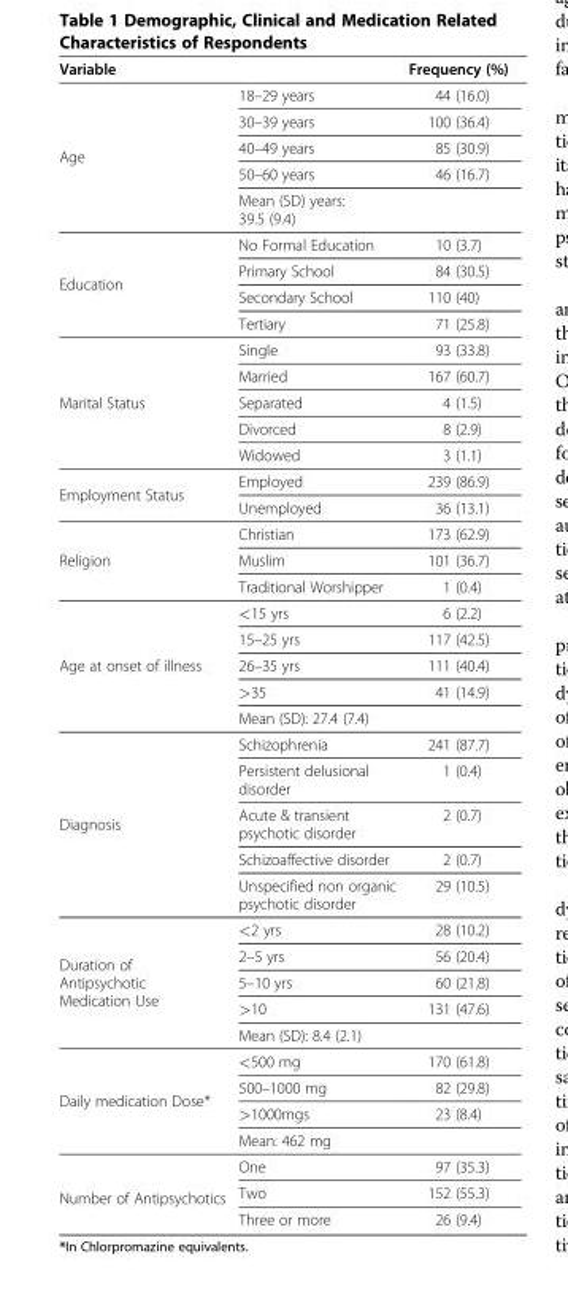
<table><thead><tr><td>Variable</td><td></td><td>Frequency (%)</td></tr></thead><tbody><tr><td rowspan="5">Age</td><td>18–29 years</td><td>44 (16.0)</td></tr><tr><td>30–39 years</td><td>100 (36.4)</td></tr><tr><td>40–49 years</td><td>85 (30.9)</td></tr><tr><td>50–60 years</td><td>46 (16.7)</td></tr><tr><td>Mean (SD) years: 39.5 (9.4)</td><td></td></tr><tr><td rowspan="4">Education</td><td>No Formal Education</td><td>10 (3.7)</td></tr><tr><td>Primary School</td><td>84 (30.5)</td></tr><tr><td>Secondary School</td><td>110 (40)</td></tr><tr><td>Tertiary</td><td>71 (25.8)</td></tr><tr><td rowspan="5">Marital Status</td><td>Single</td><td>93 (33.8)</td></tr><tr><td>Married</td><td>167 (60.7)</td></tr><tr><td>Separated</td><td>4 (1.5)</td></tr><tr><td>Divorced</td><td>8 (2.9)</td></tr><tr><td>Widowed</td><td>3 (1.1)</td></tr><tr><td rowspan="2">Employment Status</td><td>Employed</td><td>239 (86.9)</td></tr><tr><td>Unemployed</td><td>36 (13.1)</td></tr><tr><td rowspan="3">Religion</td><td>Christian</td><td>173 (62.9)</td></tr><tr><td>Muslim</td><td>101 (36.7)</td></tr><tr><td>Traditional Worshipper</td><td>1 (0.4)</td></tr><tr><td rowspan="5">Age at onset of illness</td><td>&lt;15 yrs</td><td>6 (2.2)</td></tr><tr><td>15–25 yrs</td><td>117 (42.5)</td></tr><tr><td>26–35 yrs</td><td>111 (40.4)</td></tr><tr><td>&gt;35</td><td>41 (14.9)</td></tr><tr><td>Mean (SD): 27.4 (7.4)</td><td></td></tr><tr><td rowspan="5">Diagnosis</td><td>Schizophrenia</td><td>241 (87.7)</td></tr><tr><td>Persistent delusional disorder</td><td>1 (0.4)</td></tr><tr><td>Acute &amp; transient psychotic disorder</td><td>2 (0.7)</td></tr><tr><td>Schizoaffective disorder</td><td>2 (0.7)</td></tr><tr><td>Unspecified non organic psychotic disorder</td><td>29 (10.5)</td></tr><tr><td rowspan="5">Duration of Antipsychotic Medication Use</td><td>&lt;2 yrs</td><td>28 (10.2)</td></tr><tr><td>2–5 yrs</td><td>56 (20.4)</td></tr><tr><td>5–10 yrs</td><td>60 (21.8)</td></tr><tr><td>&gt;10</td><td>131 (47.6)</td></tr><tr><td>Mean (SD): 8.4 (2.1)</td><td></td></tr><tr><td rowspan="4">Daily medication Dose*</td><td>&lt;500 mg</td><td>170 (61.8)</td></tr><tr><td>500–1000 mg</td><td>82 (29.8)</td></tr><tr><td>&gt;1000mgs</td><td>23 (8.4)</td></tr><tr><td>Mean: 462 mg</td><td></td></tr><tr><td rowspan="3">Number of Antipsychotics</td><td>One</td><td>97 (35.3)</td></tr><tr><td>Two</td><td>152 (55.3)</td></tr><tr><td>Three or more</td><td>26 (9.4)</td></tr></tbody></table>